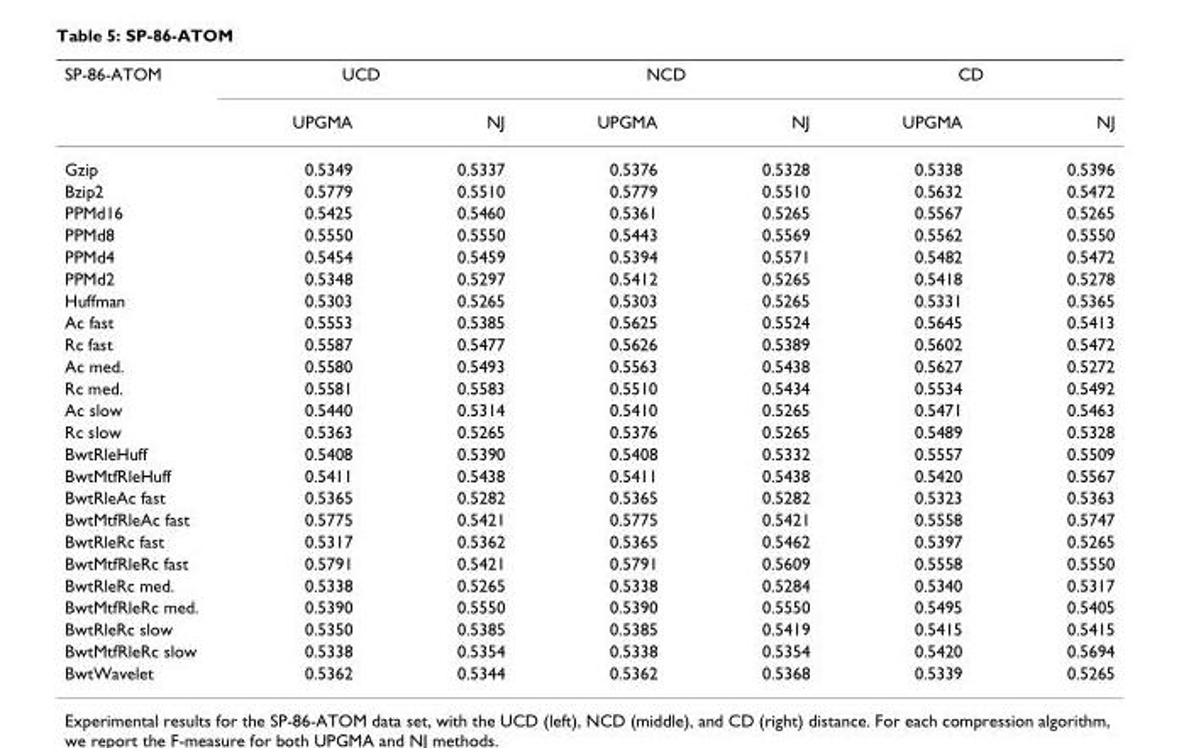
<table><thead><tr><td rowspan="2">SP-86-ATOM</td><td colspan="2">UCD</td><td colspan="2">NCD</td><td colspan="2">CD</td></tr><tr><td>UPGMA</td><td>NJ</td><td>UPGMA</td><td>NJ</td><td>UPGMA</td><td>NJ</td></tr></thead><tbody><tr><td>Gzip</td><td>0.5349</td><td>0.5337</td><td>0.5376</td><td>0.5328</td><td>0.5338</td><td>0.5396</td></tr><tr><td>Bzip2</td><td>0.5779</td><td>0.5510</td><td>0.5779</td><td>0.5510</td><td>0.5632</td><td>0.5472</td></tr><tr><td>PPMd16</td><td>0.5425</td><td>0.5460</td><td>0.5361</td><td>0.5265</td><td>0.5567</td><td>0.5265</td></tr><tr><td>PPMd8</td><td>0.5550</td><td>0.5550</td><td>0.5443</td><td>0.5569</td><td>0.5562</td><td>0.5550</td></tr><tr><td>PPMd4</td><td>0.5454</td><td>0.5459</td><td>0.5394</td><td>0.5571</td><td>0.5482</td><td>0.5472</td></tr><tr><td>PPMd2</td><td>0.5348</td><td>0.5297</td><td>0.5412</td><td>0.5265</td><td>0.5418</td><td>0.5278</td></tr><tr><td>Huffman</td><td>0.5303</td><td>0.5265</td><td>0.5303</td><td>0.5265</td><td>0.5331</td><td>0.5365</td></tr><tr><td>Ac fast</td><td>0.5553</td><td>0.5385</td><td>0.5625</td><td>0.5524</td><td>0.5645</td><td>0.5413</td></tr><tr><td>Rc fast</td><td>0.5587</td><td>0.5477</td><td>0.5626</td><td>0.5389</td><td>0.5602</td><td>0.5472</td></tr><tr><td>Ac med.</td><td>0.5580</td><td>0.5493</td><td>0.5563</td><td>0.5438</td><td>0.5627</td><td>0.5272</td></tr><tr><td>Rc med.</td><td>0.5581</td><td>0.5583</td><td>0.5510</td><td>0.5434</td><td>0.5534</td><td>0.5492</td></tr><tr><td>Ac slow</td><td>0.5440</td><td>0.5314</td><td>0.5410</td><td>0.5265</td><td>0.5471</td><td>0.5463</td></tr><tr><td>Rc slow</td><td>0.5363</td><td>0.5265</td><td>0.5376</td><td>0.5265</td><td>0.5489</td><td>0.5328</td></tr><tr><td>BwtRleHuff</td><td>0.5408</td><td>0.5390</td><td>0.5408</td><td>0.5332</td><td>0.5557</td><td>0.5509</td></tr><tr><td>BwtMtfRleHuff</td><td>0.5411</td><td>0.5438</td><td>0.5411</td><td>0.5438</td><td>0.5420</td><td>0.5567</td></tr><tr><td>BwtRleAc fast</td><td>0.5365</td><td>0.5282</td><td>0.5365</td><td>0.5282</td><td>0.5323</td><td>0.5363</td></tr><tr><td>BwtMtfRleAc fast</td><td>0.5775</td><td>0.5421</td><td>0.5775</td><td>0.5421</td><td>0.5558</td><td>0.5747</td></tr><tr><td>BwtRleRc fast</td><td>0.5317</td><td>0.5362</td><td>0.5365</td><td>0.5462</td><td>0.5397</td><td>0.5265</td></tr><tr><td>BwtMtfRleRc fast</td><td>0.5791</td><td>0.5421</td><td>0.5791</td><td>0.5609</td><td>0.5558</td><td>0.5550</td></tr><tr><td>BwtRleRc med.</td><td>0.5338</td><td>0.5265</td><td>0.5338</td><td>0.5284</td><td>0.5340</td><td>0.5317</td></tr><tr><td>BwtMtfRleRc med.</td><td>0.5390</td><td>0.5550</td><td>0.5390</td><td>0.5550</td><td>0.5495</td><td>0.5405</td></tr><tr><td>BwtRleRc slow</td><td>0.5350</td><td>0.5385</td><td>0.5385</td><td>0.5419</td><td>0.5415</td><td>0.5415</td></tr><tr><td>BwtMtfRleRc slow</td><td>0.5338</td><td>0.5354</td><td>0.5338</td><td>0.5354</td><td>0.5420</td><td>0.5694</td></tr><tr><td>BwtWavelet</td><td>0.5362</td><td>0.5344</td><td>0.5362</td><td>0.5368</td><td>0.5339</td><td>0.5265</td></tr></tbody></table>